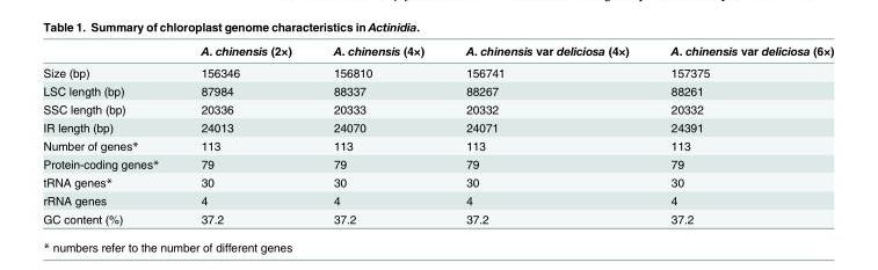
<table><thead><tr><td></td><td>A. chinensis (2×)</td><td>A. chinensis (4×)</td><td>A. chinensis var deliciosa (4×)</td><td>A. chinensis var deliciosa (6×)</td></tr></thead><tbody><tr><td>Size (bp)</td><td>156346</td><td>156810</td><td>156741</td><td>157375</td></tr><tr><td>LSC length (bp)</td><td>87984</td><td>88337</td><td>88267</td><td>88261</td></tr><tr><td>SSC length (bp)</td><td>20336</td><td>20333</td><td>20332</td><td>20332</td></tr><tr><td>IR length (bp)</td><td>24013</td><td>24070</td><td>24071</td><td>24391</td></tr><tr><td>Number of genes*</td><td>113</td><td>113</td><td>113</td><td>113</td></tr><tr><td>Protein-coding genes*</td><td>79</td><td>79</td><td>79</td><td>79</td></tr><tr><td>tRNA genes*</td><td>30</td><td>30</td><td>30</td><td>30</td></tr><tr><td>rRNA genes</td><td>4</td><td>4</td><td>4</td><td>4</td></tr><tr><td>GC content (%)</td><td>37.2</td><td>37.2</td><td>37.2</td><td>37.2</td></tr></tbody></table>